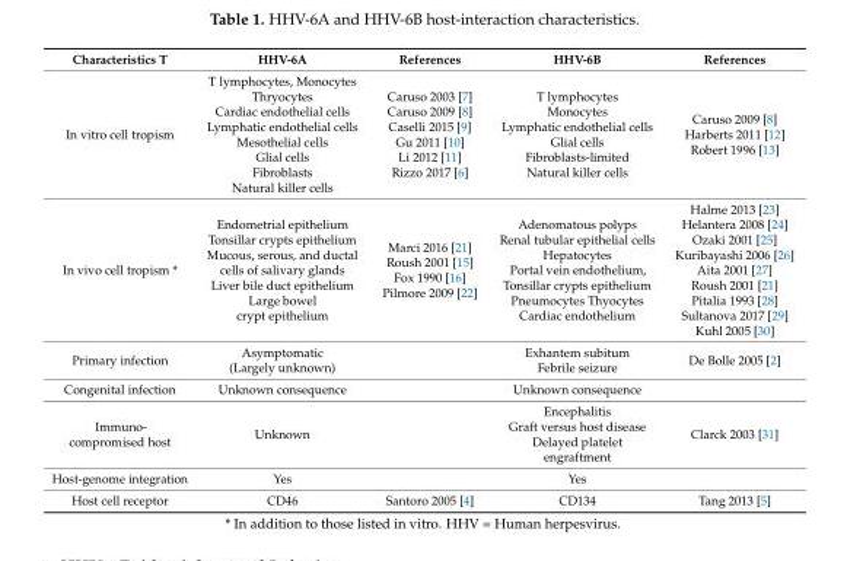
<table><thead><tr><td>Characteristics T</td><td>HHV-6A</td><td>References</td><td>HHV-6B</td><td>References</td></tr></thead><tbody><tr><td>In vitro cell tropism</td><td>T lymphocytes, Monocytes Thryocytes Cardiac endothelial cells Lymphatic endothelial cells Mesothelial cells Glial cells Fibroblasts Natural killer cells</td><td>Caruso 2003 [7] Caruso 2009 [8] Caselli 2015 [9] Gu 2011 [10] Li 2012 [11] Rizzo 2017 [6]</td><td>T lymphocytes Monocytes Lymphatic endothelial cells Glial cells Fibroblasts-limited Natural killer cells</td><td>Caruso 2009 [8] Harberts 2011 [12] Robert 1996 [13]</td></tr><tr><td>In vivo cell tropism *</td><td>Endometrial epithelium Tonsillar crypts epithelium Mucous, serous, and ductal cells of salivary glands Liver bile duct epithelium Large bowel crypt epithelium</td><td>Marci 2016 [21] Roush 2001 [15] Fox 1990 [16] Pilmore 2009 [22]</td><td>Adenomatous polyps Renal tubular epithelial cells Hepatocytes Portal vein endothelium, Tonsillar crypts epithelium Pneumocytes Thyocytes Cardiac endothelium</td><td>Halme 2013 [23] Helantera 2008 [24] Ozaki 2001 [25] Kuribayashi 2006 [26] Aita 2001 [27] Roush 2001 [21] Pitalia 1993 [28] Sultanova 2017 [29] Kuhl 2005 [30]</td></tr><tr><td>Primary infection</td><td>Asymptomatic (Largely unknown)</td><td></td><td>Exhantem subitum Febrile seizure</td><td>De Bolle 2005 [2]</td></tr><tr><td>Congenital infection</td><td>Unknown consequence</td><td></td><td>Unknown consequence</td><td></td></tr><tr><td>Immuno- compromised host</td><td>Unknown</td><td></td><td>Encephalitis Graft versus host disease Delayed platelet engraftment</td><td>Clarck 2003 [31]</td></tr><tr><td>Host-genome integration</td><td>Yes</td><td></td><td>Yes</td><td></td></tr><tr><td>Host cell receptor</td><td>CD46</td><td>Santoro 2005 [4]</td><td>CD134</td><td>Tang 2013 [5]</td></tr></tbody></table>